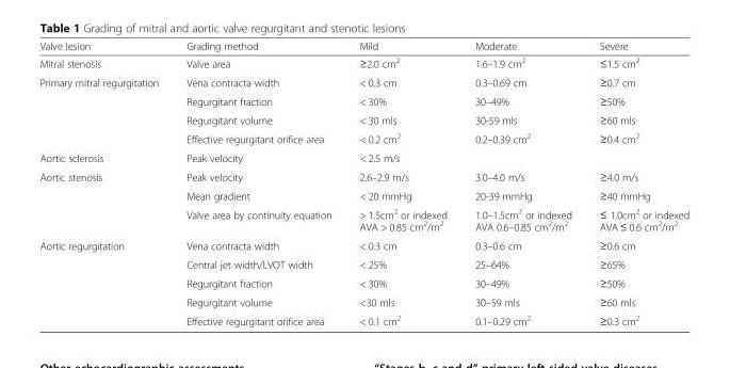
<table><thead><tr><td>Valve lesion</td><td>Grading method</td><td>Mild</td><td>Moderate</td><td>Severe</td></tr></thead><tbody><tr><td>Mitral stenosis</td><td>Valve area</td><td>≥2.0 cm<sup>2</sup></td><td>1.6–1.9 cm<sup>2</sup></td><td>≤1.5 cm<sup>2</sup></td></tr><tr><td rowspan="4">Primary mitral regurgitation</td><td>Vena contracta width</td><td>&lt; 0.3 cm</td><td>0.3–0.69 cm</td><td>≥0.7 cm</td></tr><tr><td>Regurgitant fraction</td><td>&lt; 30%</td><td>30–49%</td><td>≥50%</td></tr><tr><td>Regurgitant volume</td><td>&lt; 30 mls</td><td>30-59 mls</td><td>≥60 mls</td></tr><tr><td>Effective regurgitant orifice area</td><td>&lt; 0.2 cm<sup>2</sup></td><td>0.2–0.39 cm<sup>2</sup></td><td>≥0.4 cm<sup>2</sup></td></tr><tr><td>Aortic sclerosis</td><td>Peak velocity</td><td colspan="3">&lt; 2.5 m/s</td></tr><tr><td rowspan="3">Aortic stenosis</td><td>Peak velocity</td><td>2.6–2.9 m/s</td><td>3.0–4.0 m/s</td><td>≥4.0 m/s</td></tr><tr><td>Mean gradient</td><td>&lt; 20 mmHg</td><td>20-39 mmHg</td><td>≥40 mmHg</td></tr><tr><td>Valve area by continuity equation</td><td>&gt; 1.5cm<sup>2</sup> or indexed AVA &gt; 0.85 cm<sup>2</sup>/m<sup>2</sup></td><td>1.0–1.5cm<sup>2</sup> or indexed AVA 0.6–0.85 cm<sup>2</sup>/m<sup>2</sup></td><td>≤ 1.0cm<sup>2</sup> or indexed AVA ≤ 0.6 cm<sup>2</sup>/m<sup>2</sup></td></tr><tr><td rowspan="5">Aortic regurgitation</td><td>Vena contracta width</td><td>&lt; 0.3 cm</td><td>0.3–0.6 cm</td><td>≥0.6 cm</td></tr><tr><td>Central jet width/LVOT width</td><td>&lt; 25%</td><td>25–64%</td><td>≥65%</td></tr><tr><td>Regurgitant fraction</td><td>&lt; 30%</td><td>30–49%</td><td>≥50%</td></tr><tr><td>Regurgitant volume</td><td>&lt;30 mls</td><td>30–59 mls</td><td>≥60 mls</td></tr><tr><td>Effective regurgitant orifice area</td><td>&lt; 0.1 cm<sup>2</sup></td><td>0.1–0.29 cm<sup>2</sup></td><td>≥0.3 cm<sup>2</sup></td></tr></tbody></table>